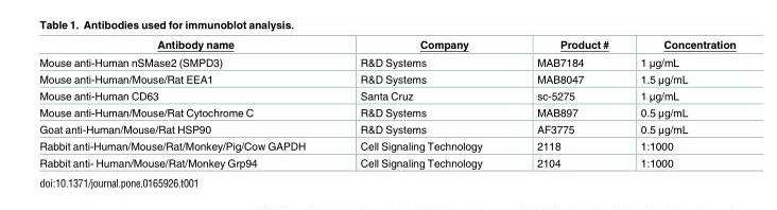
<table><thead><tr><td>Antibody name</td><td>Company</td><td>Product #</td><td>Concentration</td></tr></thead><tbody><tr><td>Mouse anti-Human nSMase2 (SMPD3)</td><td>R&amp;D Systems</td><td>MAB7184</td><td>1 μg/mL</td></tr><tr><td>Mouse anti-Human/Mouse/Rat EEA1</td><td>R&amp;D Systems</td><td>MAB8047</td><td>1.5 μg/mL</td></tr><tr><td>Mouse anti-Human CD63</td><td>Santa Cruz</td><td>sc-5275</td><td>1 μg/mL</td></tr><tr><td>Mouse anti-Human/Mouse/Rat Cytochrome C</td><td>R&amp;D Systems</td><td>MAB897</td><td>0.5 μg/mL</td></tr><tr><td>Goat anti-Human/Mouse/Rat HSP90</td><td>R&amp;D Systems</td><td>AF3775</td><td>0.5 μg/mL</td></tr><tr><td>Rabbit anti-Human/Mouse/Rat/Monkey/Pig/Cow GAPDH</td><td>Cell Signaling Technology</td><td>2118</td><td>1:1000</td></tr><tr><td>Rabbit anti- Human/Mouse/Rat/Monkey Grp94</td><td>Cell Signaling Technology</td><td>2104</td><td>1:1000</td></tr></tbody></table>